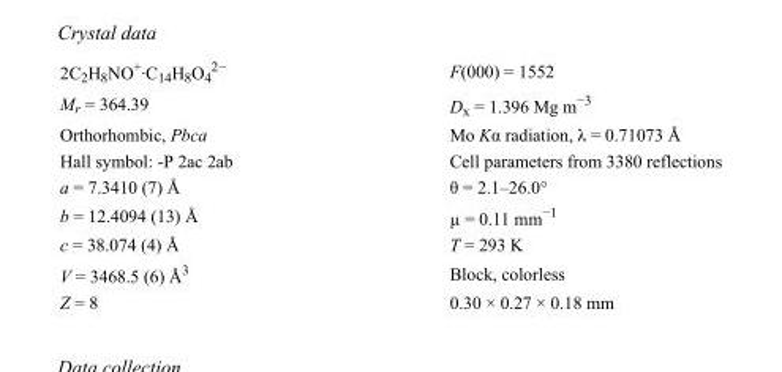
<table><tbody><tr><td>2C<sub>2</sub>H<sub>8</sub>NO<sup>+</sup>·C<sub>14</sub>H<sub>8</sub>O<sub>4</sub> <sup>2−</sup></td><td>F(000) = 1552</td></tr><tr><td>M<sub>r</sub> = 364.39</td><td>D<sub>x</sub> = 1.396 Mg m<sup>−3</sup></td></tr><tr><td>Orthorhombic, Pbca</td><td>Mo Kα radiation, λ = 0.71073 Å</td></tr><tr><td>Hall symbol: -P 2ac 2ab</td><td>Cell parameters from 3380 reflections</td></tr><tr><td>a = 7.3410 (7) Å</td><td>θ = 2.1–26.0°</td></tr><tr><td>b = 12.4094 (13) Å</td><td>µ = 0.11 mm<sup>−1</sup></td></tr><tr><td>c = 38.074 (4) Å</td><td>T = 293 K</td></tr><tr><td>V = 3468.5 (6) Å<sup>3</sup></td><td>Block, colorless</td></tr><tr><td>Z = 8</td><td>0.30 × 0.27 × 0.18 mm</td></tr></tbody></table>